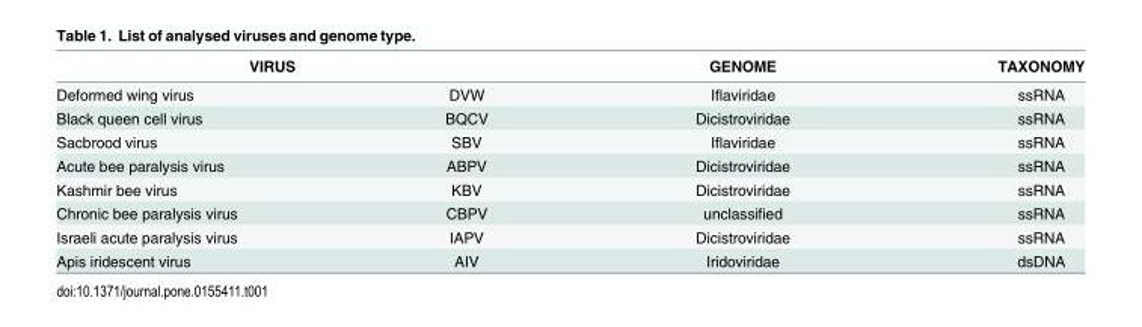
<table><thead><tr><td colspan="2">VIRUS</td><td rowspan="2">GENOME Iflaviridae</td><td rowspan="2">TAXONOMY ssRNA</td></tr><tr><td>Deformed wing virus</td><td>DVW</td></tr></thead><tbody><tr><td>Black queen cell virus</td><td>BQCV</td><td>Dicistroviridae</td><td>ssRNA</td></tr><tr><td>Sacbrood virus</td><td>SBV</td><td>Iflaviridae</td><td>ssRNA</td></tr><tr><td>Acute bee paralysis virus</td><td>ABPV</td><td>Dicistroviridae</td><td>ssRNA</td></tr><tr><td>Kashmir bee virus</td><td>KBV</td><td>Dicistroviridae</td><td>ssRNA</td></tr><tr><td>Chronic bee paralysis virus</td><td>CBPV</td><td>unclassified</td><td>ssRNA</td></tr><tr><td>Israeli acute paralysis virus</td><td>IAPV</td><td>Dicistroviridae</td><td>ssRNA</td></tr><tr><td>Apis iridescent virus</td><td>AIV</td><td>Iridoviridae</td><td>dsDNA</td></tr></tbody></table>